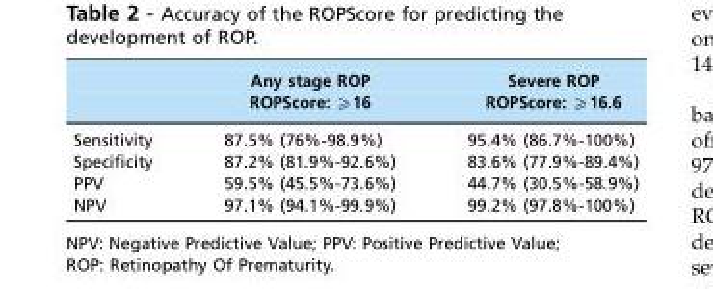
<table><thead><tr><td rowspan="2"></td><td rowspan="2">Any stage ROP ROPScore: ≥16</td><td rowspan="2">Severe ROP ROPScore: ≥16.6</td></tr><tr></tr></thead><tbody><tr><td>Sensitivity</td><td>87.5% (76%-98.9%)</td><td>95.4% (86.7%-100%)</td></tr><tr><td>Specificity</td><td>87.2% (81.9%-92.6%)</td><td>83.6% (77.9%-89.4%)</td></tr><tr><td>PPV</td><td>59.5% (45.5%-73.6%)</td><td>44.7% (30.5%-58.9%)</td></tr><tr><td>NPV</td><td>97.1% (94.1%-99.9%)</td><td>99.2% (97.8%-100%)</td></tr></tbody></table>